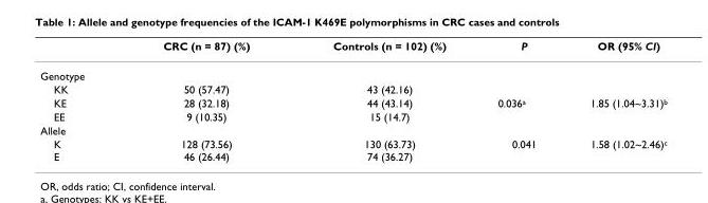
<table><thead><tr><td></td><td>CRC (n = 87) (%)</td><td>Controls (n = 102) (%)</td><td>P</td><td>OR (95% CI)</td></tr></thead><tbody><tr><td colspan="5">Genotype</td></tr><tr><td>KK</td><td>50 (57.47)</td><td>43 (42.16)</td><td></td><td></td></tr><tr><td>KE</td><td>28 (32.18)</td><td>44 (43.14)</td><td>0.036<sup>a</sup></td><td>1.85 (1.04~3.31)<sup>b</sup></td></tr><tr><td>EE</td><td>9 (10.35)</td><td>15 (14.7)</td><td></td><td></td></tr><tr><td colspan="5">Allele</td></tr><tr><td>K E</td><td>128 (73.56) 46 (26.44)</td><td>130 (63.73) 74 (36.27)</td><td>0.041</td><td>1.58 (1.02~2.46)<sup>c</sup></td></tr></tbody></table>